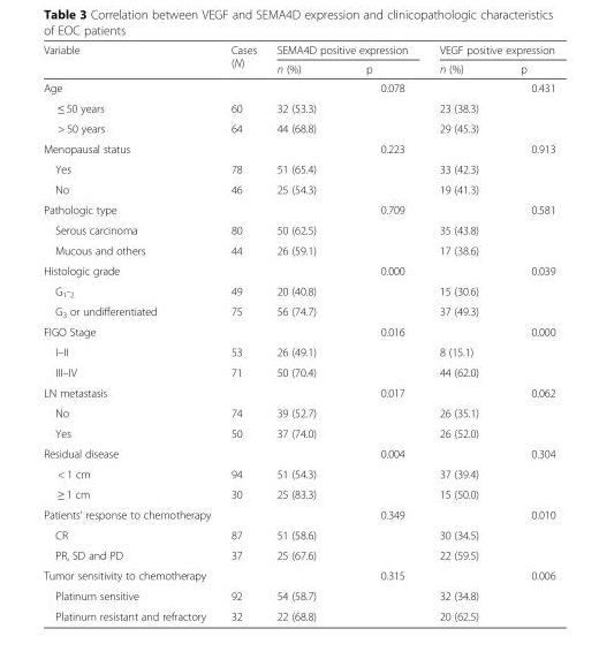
<table><thead><tr><td rowspan="2">Variable</td><td rowspan="2">Cases (N)</td><td colspan="2">SEMA4D positive expression</td><td colspan="2">VEGF positive expression</td></tr><tr><td>n (%)</td><td>p</td><td>n (%)</td><td>p</td></tr></thead><tbody><tr><td>Age</td><td></td><td></td><td>0.078</td><td></td><td>0.431</td></tr><tr><td>≤ 50 years</td><td>60</td><td>32 (53.3)</td><td></td><td>23 (38.3)</td><td rowspan="2"></td></tr><tr><td>&gt; 50 years</td><td>64</td><td>44 (68.8)</td><td></td><td>29 (45.3)</td></tr><tr><td>Menopausal status</td><td></td><td></td><td>0.223</td><td></td><td>0.913</td></tr><tr><td>Yes</td><td>78</td><td>51 (65.4)</td><td></td><td>33 (42.3)</td><td rowspan="2"></td></tr><tr><td>No</td><td>46</td><td>25 (54.3)</td><td></td><td>19 (41.3)</td></tr><tr><td>Pathologic type</td><td></td><td></td><td>0.709</td><td></td><td>0.581</td></tr><tr><td>Serous carcinoma</td><td>80</td><td>50 (62.5)</td><td></td><td>35 (43.8)</td><td rowspan="2"></td></tr><tr><td>Mucous and others</td><td>44</td><td>26 (59.1)</td><td></td><td>17 (38.6)</td></tr><tr><td>Histologic grade</td><td></td><td></td><td>0.000</td><td></td><td>0.039</td></tr><tr><td>G<sub>1</sub>-<sub>2</sub></td><td>49</td><td>20 (40.8)</td><td></td><td>15 (30.6)</td><td rowspan="2"></td></tr><tr><td>G<sub>3</sub> or undifferentiated</td><td>75</td><td>56 (74.7)</td><td></td><td>37 (49.3)</td></tr><tr><td>FIGO Stage</td><td></td><td></td><td>0.016</td><td></td><td>0.000</td></tr><tr><td>I–II</td><td>53</td><td>26 (49.1)</td><td></td><td>8 (15.1)</td><td rowspan="2"></td></tr><tr><td>III–IV</td><td>71</td><td>50 (70.4)</td><td></td><td>44 (62.0)</td></tr><tr><td>LN metastasis</td><td></td><td></td><td>0.017</td><td></td><td>0.062</td></tr><tr><td>No</td><td>74</td><td>39 (52.7)</td><td></td><td>26 (35.1)</td><td rowspan="2"></td></tr><tr><td>Yes</td><td>50</td><td>37 (74.0)</td><td></td><td>26 (52.0)</td></tr><tr><td>Residual disease</td><td></td><td></td><td>0.004</td><td></td><td>0.304</td></tr><tr><td>&lt; 1 cm</td><td>94</td><td>51 (54.3)</td><td></td><td>37 (39.4)</td><td rowspan="2"></td></tr><tr><td>≥ 1 cm</td><td>30</td><td>25 (83.3)</td><td></td><td>15 (50.0)</td></tr><tr><td>Patients’ response to chemotherapy</td><td></td><td></td><td>0.349</td><td></td><td>0.010</td></tr><tr><td>CR</td><td>87</td><td>51 (58.6)</td><td></td><td>30 (34.5)</td><td rowspan="2"></td></tr><tr><td>PR, SD and PD</td><td>37</td><td>25 (67.6)</td><td></td><td>22 (59.5)</td></tr><tr><td>Tumor sensitivity to chemotherapy</td><td></td><td></td><td>0.315</td><td></td><td>0.006</td></tr><tr><td>Platinum sensitive</td><td>92</td><td>54 (58.7)</td><td></td><td>32 (34.8)</td><td rowspan="2"></td></tr><tr><td>Platinum resistant and refractory</td><td>32</td><td>22 (68.8)</td><td></td><td>20 (62.5)</td></tr></tbody></table>